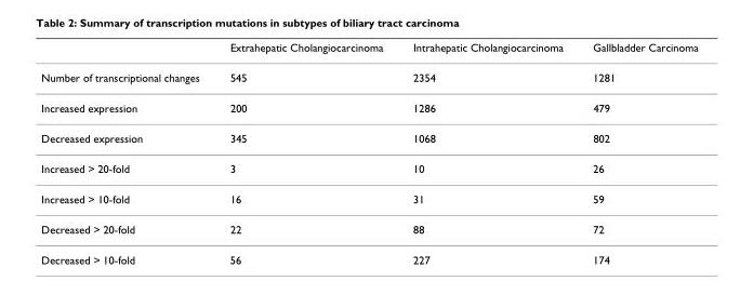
<table><thead><tr><td></td><td>Extrahepatic Cholangiocarcinoma</td><td>Intrahepatic Cholangiocarcinoma</td><td>Gallbladder Carcinoma</td></tr></thead><tbody><tr><td>Number of transcriptional changes</td><td>545</td><td>2354</td><td>1281</td></tr><tr><td>Increased expression</td><td>200</td><td>1286</td><td>479</td></tr><tr><td>Decreased expression</td><td>345</td><td>1068</td><td>802</td></tr><tr><td>Increased &gt; 20-fold</td><td>3</td><td>10</td><td>26</td></tr><tr><td>Increased &gt; 10-fold</td><td>16</td><td>31</td><td>59</td></tr><tr><td>Decreased &gt; 20-fold</td><td>22</td><td>88</td><td>72</td></tr><tr><td>Decreased &gt; 10-fold</td><td>56</td><td>227</td><td>174</td></tr></tbody></table>